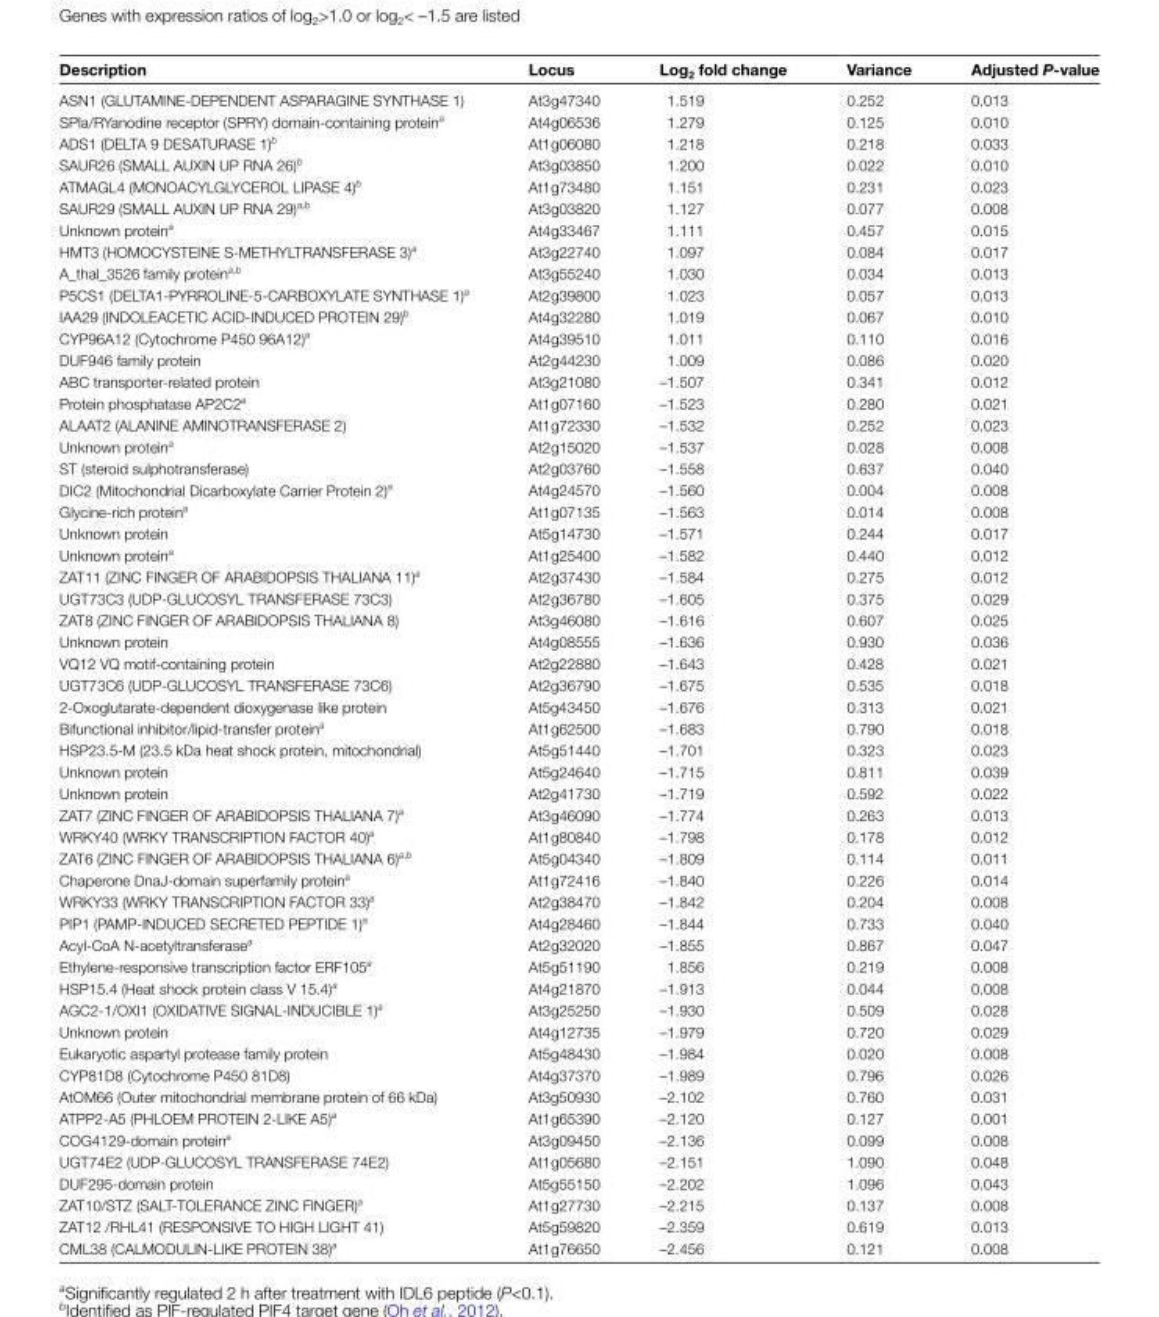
<table><thead><tr><td>Description</td><td>Locus</td><td>Log<sub>2</sub> fold change</td><td>Variance</td><td>Adjusted P-value</td></tr></thead><tbody><tr><td>ASN1 (GLUTAMINE-DEPENDENT ASPARAGINE SYNTHASE 1)</td><td>At3g47340</td><td>1.519</td><td>0.252</td><td>0.013</td></tr><tr><td>SPla/RYanodine receptor (SPRY) domain-containing protein<sup>a</sup></td><td>At4g06536</td><td>1.279</td><td>0.125</td><td>0.010</td></tr><tr><td>ADS1 (DELTA 9 DESATURASE 1)<sup>b</sup></td><td>At1g06080</td><td>1.218</td><td>0.218</td><td>0.033</td></tr><tr><td>SAUR26 (SMALL AUXIN UP RNA 26)<sup>b</sup></td><td>At3g03850</td><td>1.200</td><td>0.022</td><td>0.010</td></tr><tr><td>ATMAGL4 (MONOACYLGLYCEROL LIPASE 4)<sup>b</sup></td><td>At1g73480</td><td>1.151</td><td>0.231</td><td>0.023</td></tr><tr><td>SAUR29 (SMALL AUXIN UP RNA 29)<sup>a,b</sup></td><td>At3g03820</td><td>1.127</td><td>0.077</td><td>0.008</td></tr><tr><td>Unknown protein<sup>a</sup></td><td>At4g33467</td><td>1.111</td><td>0.457</td><td>0.015</td></tr><tr><td>HMT3 (HOMOCYSTEINE S-METHYLTRANSFERASE 3)<sup>a</sup></td><td>At3g22740</td><td>1.097</td><td>0.084</td><td>0.017</td></tr><tr><td>A_thal_3526 family protein<sup>a,b</sup></td><td>At3g55240</td><td>1.030</td><td>0.034</td><td>0.013</td></tr><tr><td>P5CS1 (DELTA1-PYRROLINE-5-CARBOXYLATE SYNTHASE 1)<sup>a</sup></td><td>At2g39800</td><td>1.023</td><td>0.057</td><td>0.013</td></tr><tr><td>IAA29 (INDOLEACETIC ACID-INDUCED PROTEIN 29)<sup>b</sup></td><td>At4g32280</td><td>1.019</td><td>0.067</td><td>0.010</td></tr><tr><td>CYP96A12 (Cytochrome P450 96A12)<sup>a</sup></td><td>At4g39510</td><td>1.011</td><td>0.110</td><td>0.016</td></tr><tr><td>DUF946 family protein</td><td>At2g44230</td><td>1.009</td><td>0.086</td><td>0.020</td></tr><tr><td>ABC transporter-related protein</td><td>At3g21080</td><td>–1.507</td><td>0.341</td><td>0.012</td></tr><tr><td>Protein phosphatase AP2C2<sup>a</sup></td><td>At1g07160</td><td>–1.523</td><td>0.280</td><td>0.021</td></tr><tr><td>ALAAT2 (ALANINE AMINOTRANSFERASE 2)</td><td>At1g72330</td><td>–1.532</td><td>0.252</td><td>0.023</td></tr><tr><td>Unknown protein<sup>a</sup></td><td>At2g15020</td><td>–1.537</td><td>0.028</td><td>0.008</td></tr><tr><td>ST (steroid sulphotransferase)</td><td>At2g03760</td><td>–1.558</td><td>0.637</td><td>0.040</td></tr><tr><td>DIC2 (Mitochondrial Dicarboxylate Carrier Protein 2)<sup>a</sup></td><td>At4g24570</td><td>–1.560</td><td>0.004</td><td>0.008</td></tr><tr><td>Glycine-rich protein<sup>a</sup></td><td>At1g07135</td><td>–1.563</td><td>0.014</td><td>0.008</td></tr><tr><td>Unknown protein</td><td>At5g14730</td><td>–1.571</td><td>0.244</td><td>0.017</td></tr><tr><td>Unknown protein<sup>a</sup></td><td>At1g25400</td><td>–1.582</td><td>0.440</td><td>0.012</td></tr><tr><td>ZAT11 (ZINC FINGER OF ARABIDOPSIS THALIANA 11)<sup>a</sup></td><td>At2g37430</td><td>–1.584</td><td>0.275</td><td>0.012</td></tr><tr><td>UGT73C3 (UDP-GLUCOSYL TRANSFERASE 73C3)</td><td>At2g36780</td><td>–1.605</td><td>0.375</td><td>0.029</td></tr><tr><td>ZAT8 (ZINC FINGER OF ARABIDOPSIS THALIANA 8)</td><td>At3g46080</td><td>–1.616</td><td>0.607</td><td>0.025</td></tr><tr><td>Unknown protein</td><td>At4g08555</td><td>–1.636</td><td>0.930</td><td>0.036</td></tr><tr><td>VQ12 VQ motif-containing protein</td><td>At2g22880</td><td>–1.643</td><td>0.428</td><td>0.021</td></tr><tr><td>UGT73C6 (UDP-GLUCOSYL TRANSFERASE 73C6)</td><td>At2g36790</td><td>–1.675</td><td>0.535</td><td>0.018</td></tr><tr><td>2-Oxoglutarate-dependent dioxygenase like protein</td><td>At5g43450</td><td>–1.676</td><td>0.313</td><td>0.021</td></tr><tr><td>Bifunctional inhibitor/lipid-transfer protein<sup>a</sup></td><td>At1g62500</td><td>–1.683</td><td>0.790</td><td>0.018</td></tr><tr><td>HSP23.5-M (23.5 kDa heat shock protein, mitochondrial)</td><td>At5g51440</td><td>–1.701</td><td>0.323</td><td>0.023</td></tr><tr><td>Unknown protein</td><td>At5g24640</td><td>–1.715</td><td>0.811</td><td>0.039</td></tr><tr><td>Unknown protein</td><td>At2g41730</td><td>–1.719</td><td>0.592</td><td>0.022</td></tr><tr><td>ZAT7 (ZINC FINGER OF ARABIDOPSIS THALIANA 7)<sup>a</sup></td><td>At3g46090</td><td>–1.774</td><td>0.263</td><td>0.013</td></tr><tr><td>WRKY40 (WRKY TRANSCRIPTION FACTOR 40)<sup>a</sup></td><td>At1g80840</td><td>–1.798</td><td>0.178</td><td>0.012</td></tr><tr><td>ZAT6 (ZINC FINGER OF ARABIDOPSIS THALIANA 6)<sup>a,b</sup></td><td>At5g04340</td><td>–1.809</td><td>0.114</td><td>0.011</td></tr><tr><td>Chaperone DnaJ-domain superfamily protein<sup>a</sup></td><td>At1g72416</td><td>–1.840</td><td>0.226</td><td>0.014</td></tr><tr><td>WRKY33 (WRKY TRANSCRIPTION FACTOR 33)<sup>a</sup></td><td>At2g38470</td><td>–1.842</td><td>0.204</td><td>0.008</td></tr><tr><td>PIP1 (PAMP-INDUCED SECRETED PEPTIDE 1)<sup>a</sup></td><td>At4g28460</td><td>–1.844</td><td>0.733</td><td>0.040</td></tr><tr><td>Acyl-CoA N-acetyltransferase<sup>a</sup></td><td>At2g32020</td><td>–1.855</td><td>0.867</td><td>0.047</td></tr><tr><td>Ethylene-responsive transcription factor ERF105<sup>a</sup></td><td>At5g51190</td><td>1.856</td><td>0.219</td><td>0.008</td></tr><tr><td>HSP15.4 (Heat shock protein class V 15.4)<sup>a</sup></td><td>At4g21870</td><td>–1.913</td><td>0.044</td><td>0.008</td></tr><tr><td>AGC2-1/OXI1 (OXIDATIVE SIGNAL-INDUCIBLE 1)<sup>a</sup></td><td>At3g25250</td><td>–1.930</td><td>0.509</td><td>0.028</td></tr><tr><td>Unknown protein</td><td>At4g12735</td><td>–1.979</td><td>0.720</td><td>0.029</td></tr><tr><td>Eukaryotic aspartyl protease family protein</td><td>At5g48430</td><td>–1.984</td><td>0.020</td><td>0.008</td></tr><tr><td>CYP81D8 (Cytochrome P450 81D8)</td><td>At4g37370</td><td>–1.989</td><td>0.796</td><td>0.026</td></tr><tr><td>AtOM66 (Outer mitochondrial membrane protein of 66 kDa)</td><td>At3g50930</td><td>–2.102</td><td>0.760</td><td>0.031</td></tr><tr><td>ATPP2-A5 (PHLOEM PROTEIN 2-LIKE A5)<sup>a</sup></td><td>At1g65390</td><td>–2.120</td><td>0.127</td><td>0.001</td></tr><tr><td>COG4129-domain protein<sup>a</sup></td><td>At3g09450</td><td>–2.136</td><td>0.099</td><td>0.008</td></tr><tr><td>UGT74E2 (UDP-GLUCOSYL TRANSFERASE 74E2)</td><td>At1g05680</td><td>–2.151</td><td>1.090</td><td>0.048</td></tr><tr><td>DUF295-domain protein</td><td>At5g55150</td><td>–2.202</td><td>1.096</td><td>0.043</td></tr><tr><td>ZAT10/STZ (SALT-TOLERANCE ZINC FINGER)<sup>a</sup></td><td>At1g27730</td><td>–2.215</td><td>0.137</td><td>0.008</td></tr><tr><td>ZAT12 /RHL41 (RESPONSIVE TO HIGH LIGHT 41)</td><td>At5g59820</td><td>–2.359</td><td>0.619</td><td>0.013</td></tr><tr><td>CML38 (CALMODULIN-LIKE PROTEIN 38)<sup>a</sup></td><td>At1g76650</td><td>–2.456</td><td>0.121</td><td>0.008</td></tr></tbody></table>